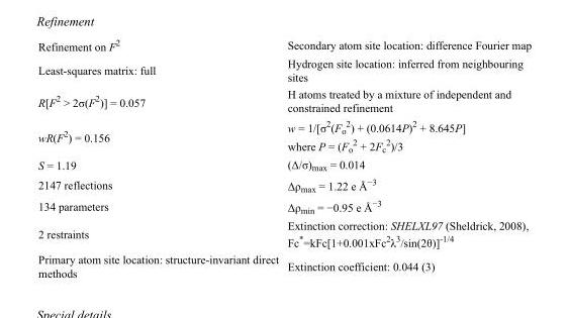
<table><tbody><tr><td>Refinement on F<sup>2</sup></td><td>Secondary atom site location: difference Fourier map</td></tr><tr><td>Least-squares matrix: full</td><td>Hydrogen site location: inferred from neighbouring sites</td></tr><tr><td>R[F<sup>2</sup> &gt; 2σ(F<sup>2</sup>)] = 0.057</td><td>H atoms treated by a mixture of independent and constrained refinement</td></tr><tr><td>wR(F<sup>2</sup>) = 0.156</td><td>w = 1/[σ<sup>2</sup>(F<sub>o</sub> <sup>2</sup>) + (0.0614P)<sup>2</sup> + 8.645P] where P = (F<sub>o</sub> <sup>2</sup> + 2F<sub>c</sub> <sup>2</sup>)/3</td></tr><tr><td>S = 1.19</td><td>(Δ/σ)<sub>max</sub> = 0.014</td></tr><tr><td>2147 reflections</td><td>Δρ<sub>max</sub> = 1.22 e Å<sup>−3</sup></td></tr><tr><td>134 parameters</td><td>Δρ<sub>min</sub> = −0.95 e Å<sup>−3</sup></td></tr><tr><td>2 restraints</td><td>Extinction correction: SHELXL97 (Sheldrick, 2008), Fc*=kFc[1+0.001xFc<sup>2</sup>λ<sup>3</sup>/sin(2θ)]<sup>-1/4</sup></td></tr><tr><td>Primary atom site location: structure-invariant direct methods</td><td>Extinction coefficient: 0.044 (3)</td></tr></tbody></table>